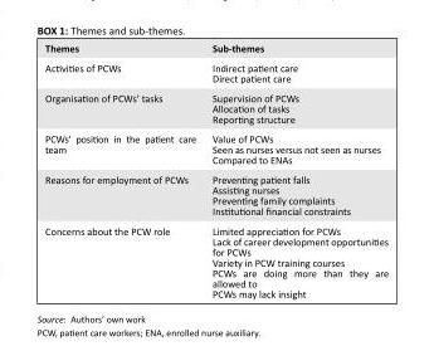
<table><thead><tr><td>Themes</td><td>Sub-themes</td></tr></thead><tbody><tr><td>Activities of PCWs</td><td>Indirect patient care Direct patient care</td></tr><tr><td>Organisation of PCWs’ tasks</td><td>Supervision of PCWs Allocation of tasks Reporting structure</td></tr><tr><td>PCWs’ position in the patient care team</td><td>Value of PCWs Seen as nurses versus not seen as nurses Compared to ENAs</td></tr><tr><td>Reasons for employment of PCWs</td><td>Preventing patient falls Assisting nurses Preventing family complaints Institutional financial constraints</td></tr><tr><td>Concerns about the PCW role</td><td>Limited appreciation for PCWs Lack of career development opportunities for PCWs Variety in PCW training courses PCWs are doing more than they are allowed to PCWs may lack insight</td></tr></tbody></table>